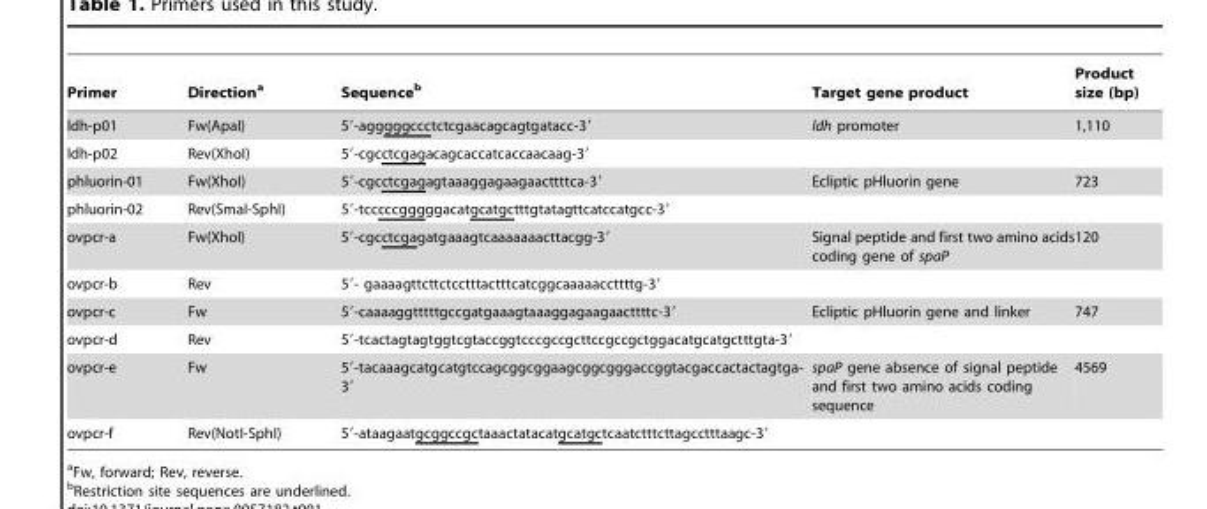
<table><thead><tr><td>Primer</td><td>Direction<sup>a</sup></td><td>Sequence<sup>b</sup></td><td>Target gene product</td><td>Product size (bp)</td></tr></thead><tbody><tr><td>ldh-p01</td><td>Fw(ApaI)</td><td>5′-agggggccctctcgaacagcagtgatacc-3′</td><td>ldh promoter</td><td>1,110</td></tr><tr><td>ldh-p02</td><td>Rev(XhoI)</td><td>5′-cgcctcgagacagcaccatcaccaacaag-3′</td><td></td><td></td></tr><tr><td>phluorin-01</td><td>Fw(XhoI)</td><td>5′-cgcctcgagagtaaaggagaagaacttttca-3′</td><td>Ecliptic pHluorin gene</td><td>723</td></tr><tr><td>phluorin-02</td><td>Rev(SmaI-SphI)</td><td>5′-tcccccgggggacatgcatgctttgtatagttcatccatgcc-3′</td><td></td><td></td></tr><tr><td>ovpcr-a</td><td>Fw(XhoI)</td><td>5′-cgcctcgagatgaaagtcaaaaaaacttacgg-3′</td><td>Signal peptide and first two amino acids coding gene of spaP</td><td>120</td></tr><tr><td>ovpcr-b</td><td>Rev</td><td>5′- gaaaagttcttctcctttactttcatcggcaaaaaccttttg-3′</td><td></td><td></td></tr><tr><td>ovpcr-c</td><td>Fw</td><td>5′-caaaaggtttttgccgatgaaagtaaaggagaagaacttttc-3′</td><td>Ecliptic pHluorin gene and linker</td><td>747</td></tr><tr><td>ovpcr-d</td><td>Rev</td><td>5′-tcactagtagtggtcgtaccggtcccgccgcttccgccgctggacatgcatgctttgta-3′</td><td></td><td></td></tr><tr><td>ovpcr-e</td><td>Fw</td><td>5′-tacaaagcatgcatgtccagcggcggaagcggcgggaccggtacgaccactactagtga- 3′</td><td>spaP gene absence of signal peptide and first two amino acids coding sequence</td><td>4569</td></tr><tr><td>ovpcr-f</td><td>Rev(NotI-SphI)</td><td>5′-ataagaatgcggccgctaaactatacatgcatgctcaatctttcttagcctttaagc-3′</td><td></td><td></td></tr></tbody></table>